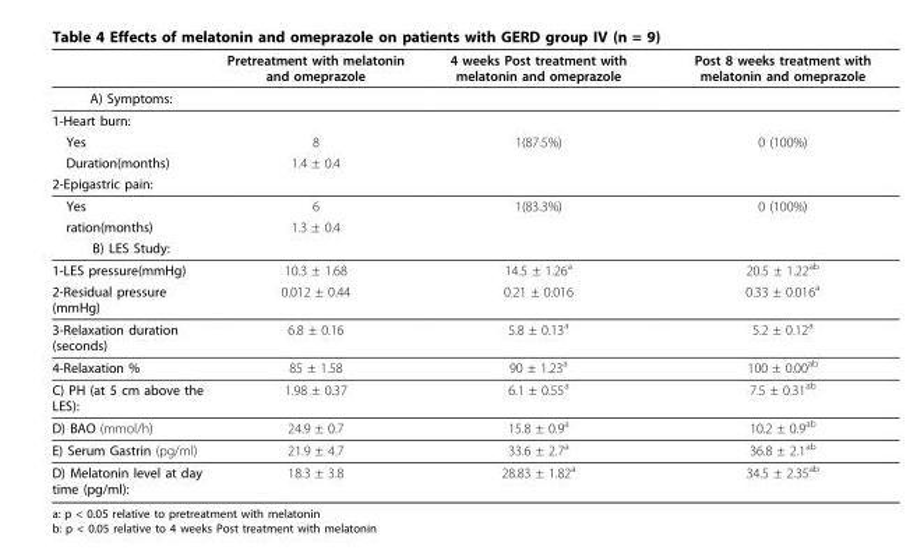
<table><thead><tr><td></td><td>Pretreatment with melatonin and omeprazole</td><td>4 weeks Post treatment with melatonin and omeprazole</td><td>Post 8 weeks treatment with melatonin and omeprazole</td></tr></thead><tbody><tr><td colspan="4">A) Symptoms:</td></tr><tr><td colspan="4">1-Heart burn:</td></tr><tr><td>Yes</td><td>8</td><td>1(87.5%)</td><td>0 (100%)</td></tr><tr><td>Duration(months)</td><td>1.4 ± 0.4</td><td></td><td></td></tr><tr><td colspan="4">2-Epigastric pain:</td></tr><tr><td>Yes</td><td>6</td><td>1(83.3%)</td><td>0 (100%)</td></tr><tr><td>ration(months)</td><td>1.3 ± 0.4</td><td></td><td></td></tr><tr><td colspan="4">B) LES Study:</td></tr><tr><td>1-LES pressure(mmHg)</td><td>10.3 ± 1.68</td><td>14.5 ± 1.26<sup>a</sup></td><td>20.5 ± 1.22<sup>ab</sup></td></tr><tr><td>2-Residual pressure (mmHg)</td><td>0.012 ± 0.44</td><td>0.21 ± 0.016</td><td>0.33 ± 0.016<sup>a</sup></td></tr><tr><td>3-Relaxation duration (seconds)</td><td>6.8 ± 0.16</td><td>5.8 ± 0.13<sup>a</sup></td><td>5.2 ± 0.12<sup>a</sup></td></tr><tr><td>4-Relaxation %</td><td>85 ± 1.58</td><td>90 ± 1.23<sup>a</sup></td><td>100 ± 0.00<sup>ab</sup></td></tr><tr><td>C) PH (at 5 cm above the LES):</td><td>1.98 ± 0.37</td><td>6.1 ± 0.55<sup>a</sup></td><td>7.5 ± 0.31<sup>ab</sup></td></tr><tr><td>D) BAO (mmol/h)</td><td>24.9 ± 0.7</td><td>15.8 ± 0.9<sup>a</sup></td><td>10.2 ± 0.9<sup>ab</sup></td></tr><tr><td>E) Serum Gastrin (pg/ml)</td><td>21.9 ± 4.7</td><td>33.6 ± 2.7<sup>a</sup></td><td>36.8 ± 2.1<sup>ab</sup></td></tr><tr><td>D) Melatonin level at day time (pg/ml):</td><td>18.3 ± 3.8</td><td>28.83 ± 1.82<sup>a</sup></td><td>34.5 ± 2.35<sup>ab</sup></td></tr></tbody></table>